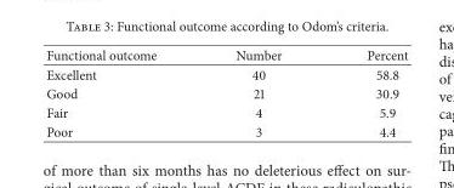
<table><thead><tr><td>Functional outcome</td><td>Number</td><td>Percent</td></tr></thead><tbody><tr><td>Excellent</td><td>40</td><td>58.8</td></tr><tr><td>Good</td><td>21</td><td>30.9</td></tr><tr><td>Fair</td><td>4</td><td>5.9</td></tr><tr><td>Poor</td><td>3</td><td>4.4</td></tr></tbody></table>